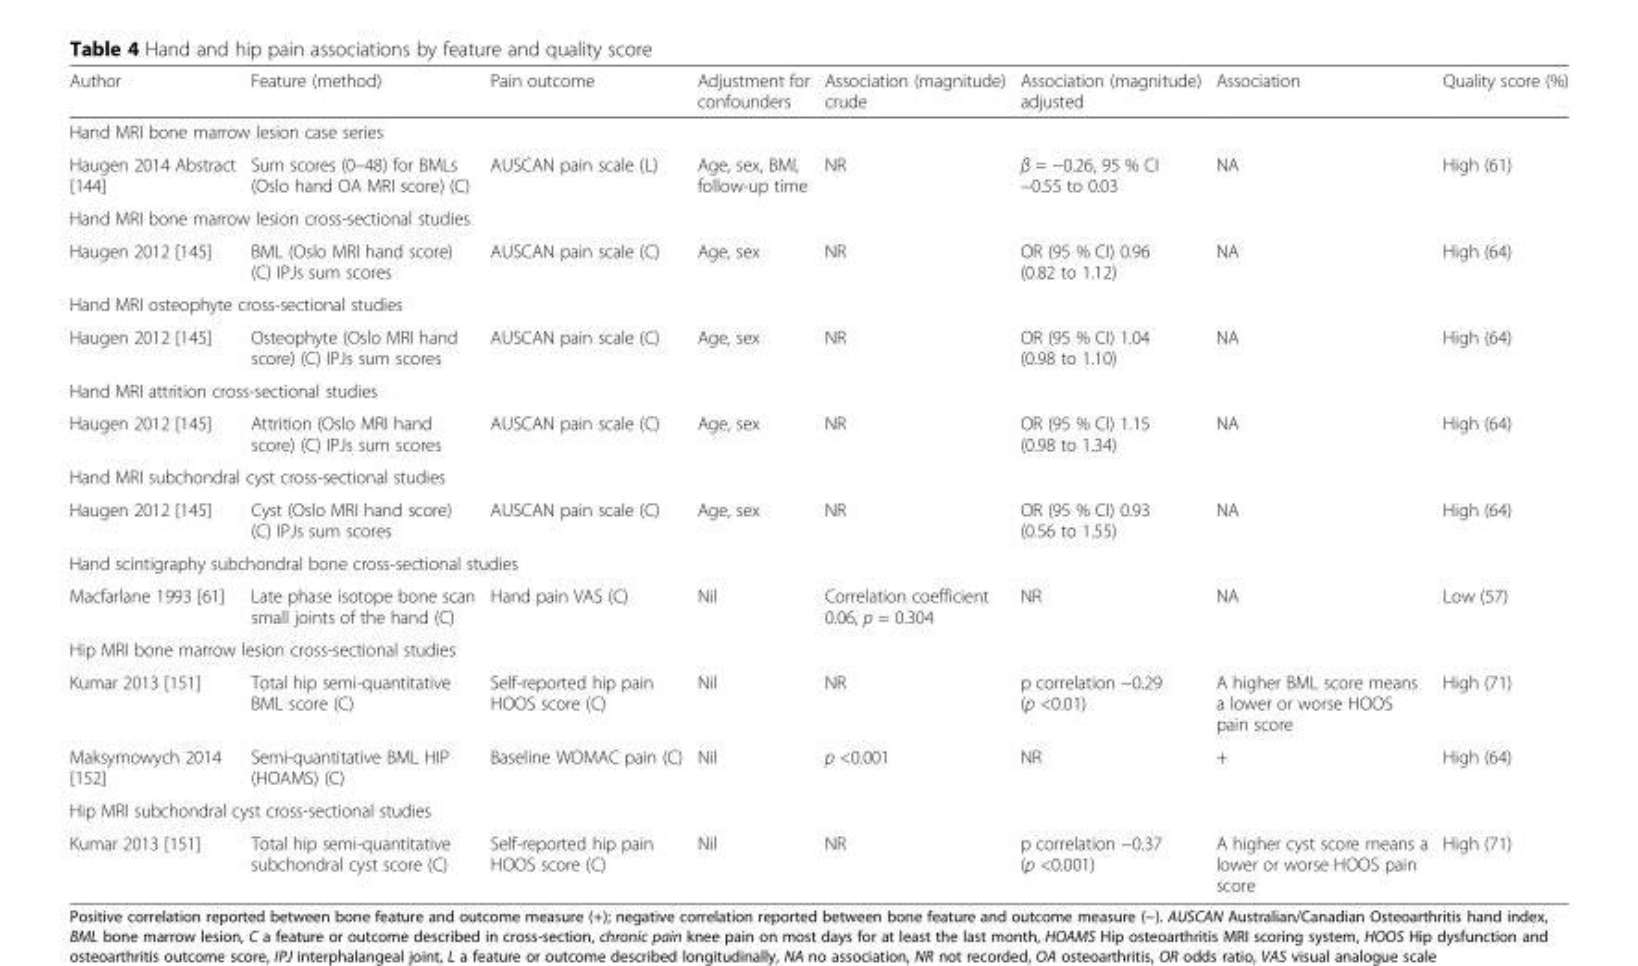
<table><thead><tr><td>Author</td><td>Feature (method)</td><td>Pain outcome</td><td>Adjustment for confounders</td><td>Association (magnitude) crude</td><td>Association (magnitude) adjusted</td><td>Association</td><td>Quality score (%)</td></tr></thead><tbody><tr><td colspan="8">Hand MRI bone marrow lesion case series</td></tr><tr><td>Haugen 2014 Abstract [144]</td><td>Sum scores (0–48) for BMLs (Oslo hand OA MRI score) (C)</td><td>AUSCAN pain scale (L)</td><td>Age, sex, BMI, follow-up time</td><td>NR</td><td>β = −0.26, 95 % CI −0.55 to 0.03</td><td>NA</td><td>High (61)</td></tr><tr><td colspan="8">Hand MRI bone marrow lesion cross-sectional studies</td></tr><tr><td>Haugen 2012 [145]</td><td>BML (Oslo MRI hand score) (C) IPJs sum scores</td><td>AUSCAN pain scale (C)</td><td>Age, sex</td><td>NR</td><td>OR (95 % CI) 0.96 (0.82 to 1.12)</td><td>NA</td><td>High (64)</td></tr><tr><td colspan="8">Hand MRI osteophyte cross-sectional studies</td></tr><tr><td>Haugen 2012 [145]</td><td>Osteophyte (Oslo MRI hand score) (C) IPJs sum scores</td><td>AUSCAN pain scale (C)</td><td>Age, sex</td><td>NR</td><td>OR (95 % CI) 1.04 (0.98 to 1.10)</td><td>NA</td><td>High (64)</td></tr><tr><td colspan="8">Hand MRI attrition cross-sectional studies</td></tr><tr><td>Haugen 2012 [145]</td><td>Attrition (Oslo MRI hand score) (C) IPJs sum scores</td><td>AUSCAN pain scale (C)</td><td>Age, sex</td><td>NR</td><td>OR (95 % CI) 1.15 (0.98 to 1.34)</td><td>NA</td><td>High (64)</td></tr><tr><td colspan="8">Hand MRI subchondral cyst cross-sectional studies</td></tr><tr><td>Haugen 2012 [145]</td><td>Cyst (Oslo MRI hand score) (C) IPJs sum scores</td><td>AUSCAN pain scale (C)</td><td>Age, sex</td><td>NR</td><td>OR (95 % CI) 0.93 (0.56 to 1.55)</td><td>NA</td><td>High (64)</td></tr><tr><td colspan="8">Hand scintigraphy subchondral bone cross-sectional studies</td></tr><tr><td>Macfarlane 1993 [61]</td><td>Late phase isotope bone scan small joints of the hand (C)</td><td>Hand pain VAS (C)</td><td>Nil</td><td>Correlation coefficient 0.06, p = 0.304</td><td>NR</td><td>NA</td><td>Low (57)</td></tr><tr><td colspan="8">Hip MRI bone marrow lesion cross-sectional studies</td></tr><tr><td>Kumar 2013 [151]</td><td>Total hip semi-quantitative BML score (C)</td><td>Self-reported hip pain HOOS score (C)</td><td>Nil</td><td>NR</td><td>p correlation −0.29 (p &lt;0.01)</td><td>A higher BML score means a lower or worse HOOS pain score</td><td>High (71)</td></tr><tr><td>Maksymowych 2014 [152]</td><td>Semi-quantitative BML HIP (HOAMS) (C)</td><td>Baseline WOMAC pain (C)</td><td>Nil</td><td>p &lt;0.001</td><td>NR</td><td>+</td><td>High (64)</td></tr><tr><td colspan="8">Hip MRI subchondral cyst cross-sectional studies</td></tr><tr><td>Kumar 2013 [151]</td><td>Total hip semi-quantitative subchondral cyst score (C)</td><td>Self-reported hip pain HOOS score (C)</td><td>Nil</td><td>NR</td><td>p correlation −0.37 (p &lt;0.001)</td><td>A higher cyst score means a lower or worse HOOS pain score</td><td>High (71)</td></tr></tbody></table>